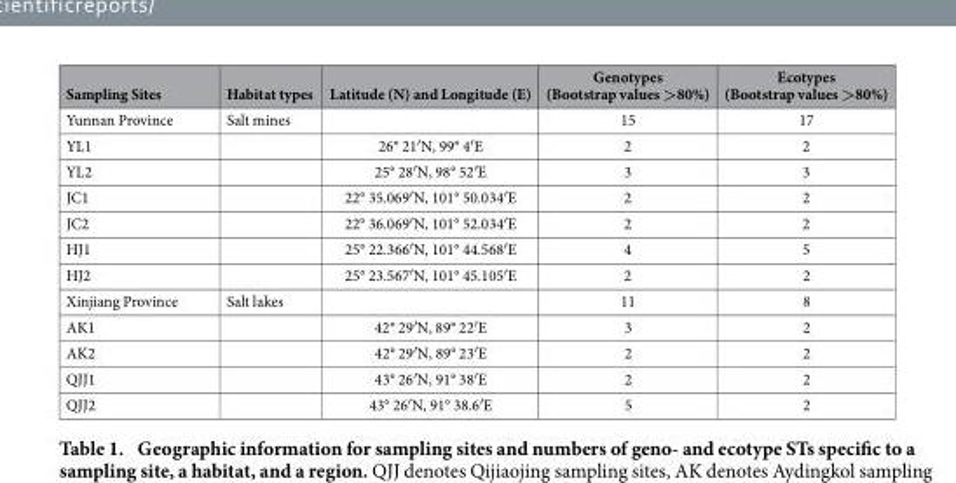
<table><thead><tr><td>Sampling Sites</td><td>Habitat types</td><td>Latitude (N) and Longitude (E)</td><td>Genotypes (Bootstrap values &gt;80%)</td><td>Ecotypes (Bootstrap values &gt;80%)</td></tr></thead><tbody><tr><td>Yunnan Province</td><td>Salt mines</td><td></td><td>15</td><td>17</td></tr><tr><td>YL1</td><td></td><td>26° 21′ N, 99° 4′ E</td><td>2</td><td>2</td></tr><tr><td>YL2</td><td></td><td>25° 28′ N, 98° 52′ E</td><td>3</td><td>3</td></tr><tr><td>JC1</td><td></td><td>22° 35.069′ N, 101° 50.034′ E</td><td>2</td><td>2</td></tr><tr><td>JC2</td><td></td><td>22° 36.069′ N, 101° 52.034′ E</td><td>2</td><td>2</td></tr><tr><td>HJ1</td><td></td><td>25° 22.366′ N, 101° 44.568′ E</td><td>4</td><td>5</td></tr><tr><td>HJ2</td><td></td><td>25° 23.567′ N, 101° 45.105′ E</td><td>2</td><td>2</td></tr><tr><td>Xinjiang Province</td><td>Salt lakes</td><td></td><td>11</td><td>8</td></tr><tr><td>AK1</td><td></td><td>42° 29′ N, 89° 22′ E</td><td>3</td><td>2</td></tr><tr><td>AK2</td><td></td><td>42° 29′ N, 89° 23′ E</td><td>2</td><td>2</td></tr><tr><td>QJJ1</td><td></td><td>43° 26′ N, 91° 38′ E</td><td>2</td><td>2</td></tr><tr><td>QJJ2</td><td></td><td>43° 26′ N, 91° 38.6′ E</td><td>5</td><td>2</td></tr></tbody></table>